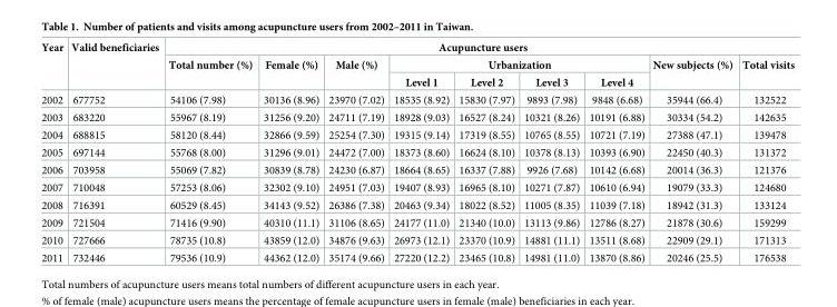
<table><thead><tr><td rowspan="3">Year</td><td rowspan="3">Valid beneficiaries</td><td colspan="9">Acupuncture users</td></tr><tr><td rowspan="2">Total number (%)</td><td rowspan="2">Female (%)</td><td rowspan="2">Male (%)</td><td colspan="4">Urbanization</td><td rowspan="2">New subjects (%)</td><td rowspan="2">Total visits</td></tr><tr><td>Level 1</td><td>Level 2</td><td>Level 3</td><td>Level 4</td></tr></thead><tbody><tr><td>2002</td><td>677752</td><td>54106 (7.98)</td><td>30136 (8.96)</td><td>23970 (7.02)</td><td>18535 (8.92)</td><td>15830 (7.97)</td><td>9893 (7.98)</td><td>9848 (6.68)</td><td>35944 (66.4)</td><td>132522</td></tr><tr><td>2003</td><td>683220</td><td>55967 (8.19)</td><td>31256 (9.20)</td><td>24711 (7.19)</td><td>18928 (9.03)</td><td>16527 (8.24)</td><td>10321 (8.26)</td><td>10191 (6.88)</td><td>30334 (54.2)</td><td>142635</td></tr><tr><td>2004</td><td>688815</td><td>58120 (8.44)</td><td>32866 (9.59)</td><td>25254 (7.30)</td><td>19315 (9.14)</td><td>17319 (8.55)</td><td>10765 (8.55)</td><td>10721 (7.19)</td><td>27388 (47.1)</td><td>139478</td></tr><tr><td>2005</td><td>697144</td><td>55768 (8.00)</td><td>31296 (9.01)</td><td>24472 (7.00)</td><td>18373 (8.60)</td><td>16624 (8.10)</td><td>10378 (8.13)</td><td>10393 (6.90)</td><td>22450 (40.3)</td><td>131372</td></tr><tr><td>2006</td><td>703958</td><td>55069 (7.82)</td><td>30839 (8.78)</td><td>24230 (6.87)</td><td>18664 (8.65)</td><td>16337 (7.88)</td><td>9926 (7.68)</td><td>10142 (6.68)</td><td>20014 (36.3)</td><td>121376</td></tr><tr><td>2007</td><td>710048</td><td>57253 (8.06)</td><td>32302 (9.10)</td><td>24951 (7.03)</td><td>19407 (8.93)</td><td>16965 (8.10)</td><td>10271 (7.87)</td><td>10610 (6.94)</td><td>19079 (33.3)</td><td>124680</td></tr><tr><td>2008</td><td>716391</td><td>60529 (8.45)</td><td>34143 (9.52)</td><td>26386 (7.38)</td><td>20463 (9.34)</td><td>18022 (8.52)</td><td>11005 (8.35)</td><td>11039 (7.18)</td><td>18942 (31.3)</td><td>133124</td></tr><tr><td>2009</td><td>721504</td><td>71416 (9.90)</td><td>40310 (11.1)</td><td>31106 (8.65)</td><td>24177 (11.0)</td><td>21340 (10.0)</td><td>13113 (9.86)</td><td>12786 (8.27)</td><td>21878 (30.6)</td><td>159299</td></tr><tr><td>2010</td><td>727666</td><td>78735 (10.8)</td><td>43859 (12.0)</td><td>34876 (9.63)</td><td>26973 (12.1)</td><td>23370 (10.9)</td><td>14881 (11.1)</td><td>13511 (8.68)</td><td>22909 (29.1)</td><td>171313</td></tr><tr><td>2011</td><td>732446</td><td>79536 (10.9)</td><td>44362 (12.0)</td><td>35174 (9.66)</td><td>27220 (12.2)</td><td>23465 (10.8)</td><td>14981 (11.0)</td><td>13870 (8.86)</td><td>20246 (25.5)</td><td>176538</td></tr></tbody></table>